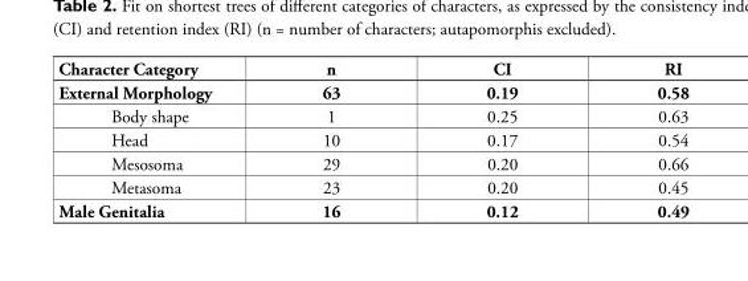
<table><tbody><tr><td>Character Category</td><td>n</td><td>CI</td><td>RI</td></tr><tr><td>External Morphology</td><td>63</td><td>0.19</td><td>0.58</td></tr><tr><td>Body shape</td><td>1</td><td>0.25</td><td>0.63</td></tr><tr><td>Head</td><td>10</td><td>0.17</td><td>0.54</td></tr><tr><td>Mesosoma</td><td>29</td><td>0.20</td><td>0.66</td></tr><tr><td>Metasoma</td><td>23</td><td>0.20</td><td>0.45</td></tr><tr><td>Male Genitalia</td><td>16</td><td>0.12</td><td>0.49</td></tr></tbody></table>